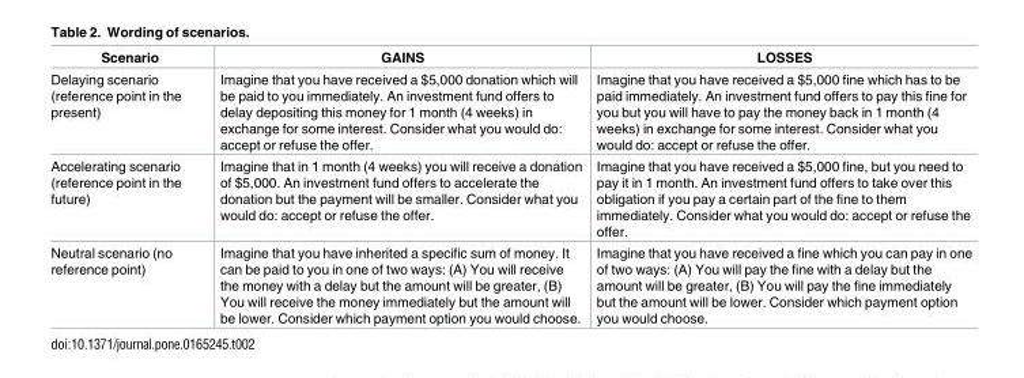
<table><thead><tr><td>Scenario</td><td>GAINS</td><td>LOSSES</td></tr></thead><tbody><tr><td>Delaying scenario (reference point in the present)</td><td>Imagine that you have received a $5,000 donation which will be paid to you immediately. An investment fund offers to delay depositing this money for 1 month (4 weeks) in exchange for some interest. Consider what you would do: accept or refuse the offer.</td><td>Imagine that you have received a $5,000 fine which has to be paid immediately. An investment fund offers to pay this fine for you but you will have to pay the money back in 1 month (4 weeks) in exchange for some interest. Consider what you would do: accept or refuse the offer.</td></tr><tr><td>Accelerating scenario (reference point in the future)</td><td>Imagine that in 1 month (4 weeks) you will receive a donation of $5,000. An investment fund offers to accelerate the donation but the payment will be smaller. Consider what you would do: accept or refuse the offer.</td><td>Imagine that you have received a $5,000 fine, but you need to pay it in 1 month. An investment fund offers to take over this obligation if you pay a certain part of the fine to them immediately. Consider what you would do: accept or refuse the offer.</td></tr><tr><td>Neutral scenario (no reference point)</td><td>Imagine that you have inherited a specific sum of money. It can be paid to you in one of two ways: (A) You will receive the money with a delay but the amount will be greater, (B) You will receive the money immediately but the amount will be lower. Consider which payment option you would choose.</td><td>Imagine that you have received a fine which you can pay in one of two ways: (A) You will pay the fine with a delay but the amount will be greater, (B) You will pay the fine immediately but the amount will be lower. Consider which payment option you would choose.</td></tr></tbody></table>